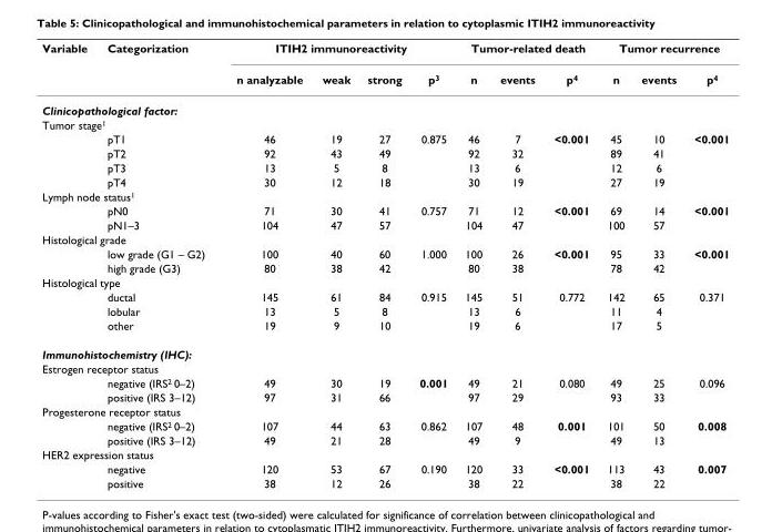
<table><thead><tr><td rowspan="2">Variable</td><td rowspan="2">Categorization</td><td colspan="4">ITIH2 immunoreactivity</td><td colspan="3">Tumor-related death</td><td colspan="3">Tumor recurrence</td></tr><tr><td>n analyzable</td><td>weak</td><td>strong</td><td>p<sup>3</sup></td><td>n</td><td>events</td><td>p<sup>4</sup></td><td>n</td><td>events</td><td>p<sup>4</sup></td></tr></thead><tbody><tr><td colspan="12">Clinicopathological factor:</td></tr><tr><td colspan="12">Tumor stage<sup>1</sup></td></tr><tr><td></td><td>pT1</td><td>46</td><td>19</td><td>27</td><td>0.875</td><td>46</td><td>7</td><td>&lt;0.001</td><td>45</td><td>10</td><td>&lt;0.001</td></tr><tr><td></td><td>pT2</td><td>92</td><td>43</td><td>49</td><td></td><td>92</td><td>32</td><td></td><td>89</td><td>41</td><td></td></tr><tr><td></td><td>pT3</td><td>13</td><td>5</td><td>8</td><td></td><td>13</td><td>6</td><td></td><td>12</td><td>6</td><td></td></tr><tr><td></td><td>pT4</td><td>30</td><td>12</td><td>18</td><td></td><td>30</td><td>19</td><td></td><td>27</td><td>19</td><td></td></tr><tr><td colspan="12">Lymph node status<sup>1</sup></td></tr><tr><td></td><td>pN0</td><td>71</td><td>30</td><td>41</td><td>0.757</td><td>71</td><td>12</td><td>&lt;0.001</td><td>69</td><td>14</td><td>&lt;0.001</td></tr><tr><td></td><td>pN1–3</td><td>104</td><td>47</td><td>57</td><td></td><td>104</td><td>47</td><td></td><td>100</td><td>57</td><td></td></tr><tr><td colspan="12">Histological grade</td></tr><tr><td></td><td>low grade (G1 – G2)</td><td>100</td><td>40</td><td>60</td><td>1.000</td><td>100</td><td>26</td><td>&lt;0.001</td><td>95</td><td>33</td><td>&lt;0.001</td></tr><tr><td></td><td>high grade (G3)</td><td>80</td><td>38</td><td>42</td><td></td><td>80</td><td>38</td><td></td><td>78</td><td>42</td><td></td></tr><tr><td colspan="12">Histological type</td></tr><tr><td></td><td>ductal</td><td>145</td><td>61</td><td>84</td><td>0.915</td><td>145</td><td>51</td><td>0.772</td><td>142</td><td>65</td><td>0.371</td></tr><tr><td></td><td>lobular</td><td>13</td><td>5</td><td>8</td><td></td><td>13</td><td>6</td><td></td><td>11</td><td>4</td><td></td></tr><tr><td></td><td>other</td><td>19</td><td>9</td><td>10</td><td></td><td>19</td><td>6</td><td></td><td>17</td><td>5</td><td></td></tr><tr><td colspan="12">Immunohistochemistry (IHC):</td></tr><tr><td colspan="12">Estrogen receptor status</td></tr><tr><td></td><td>negative (IRS<sup>2</sup> 0–2)</td><td>49</td><td>30</td><td>19</td><td>0.001</td><td>49</td><td>21</td><td>0.080</td><td>49</td><td>25</td><td>0.096</td></tr><tr><td></td><td>positive (IRS 3–12)</td><td>97</td><td>31</td><td>66</td><td></td><td>97</td><td>29</td><td></td><td>93</td><td>33</td><td></td></tr><tr><td colspan="12">Progesterone receptor status</td></tr><tr><td></td><td>negative (IRS<sup>2</sup> 0–2)</td><td>107</td><td>44</td><td>63</td><td>0.862</td><td>107</td><td>48</td><td>0.001</td><td>101</td><td>50</td><td>0.008</td></tr><tr><td></td><td>positive (IRS 3–12)</td><td>49</td><td>21</td><td>28</td><td></td><td>49</td><td>9</td><td></td><td>49</td><td>13</td><td></td></tr><tr><td colspan="12">HER2 expression status</td></tr><tr><td></td><td>negative</td><td>120</td><td>53</td><td>67</td><td>0.190</td><td>120</td><td>33</td><td>&lt;0.001</td><td>113</td><td>43</td><td>0.007</td></tr><tr><td></td><td>positive</td><td>38</td><td>12</td><td>26</td><td></td><td>38</td><td>22</td><td></td><td>38</td><td>22</td><td></td></tr></tbody></table>